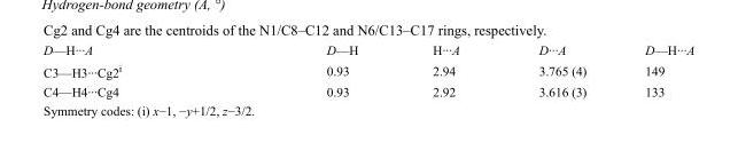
<table><tbody><tr><td>D—H···A</td><td>D—H</td><td>H···A</td><td>D···A</td><td>D—H···A</td></tr><tr><td>C3—H3···Cg2<sup>i</sup></td><td>0.93</td><td>2.94</td><td>3.765 (4)</td><td>149</td></tr><tr><td>C4—H4···Cg4</td><td>0.93</td><td>2.92</td><td>3.616 (3)</td><td>133</td></tr></tbody></table>